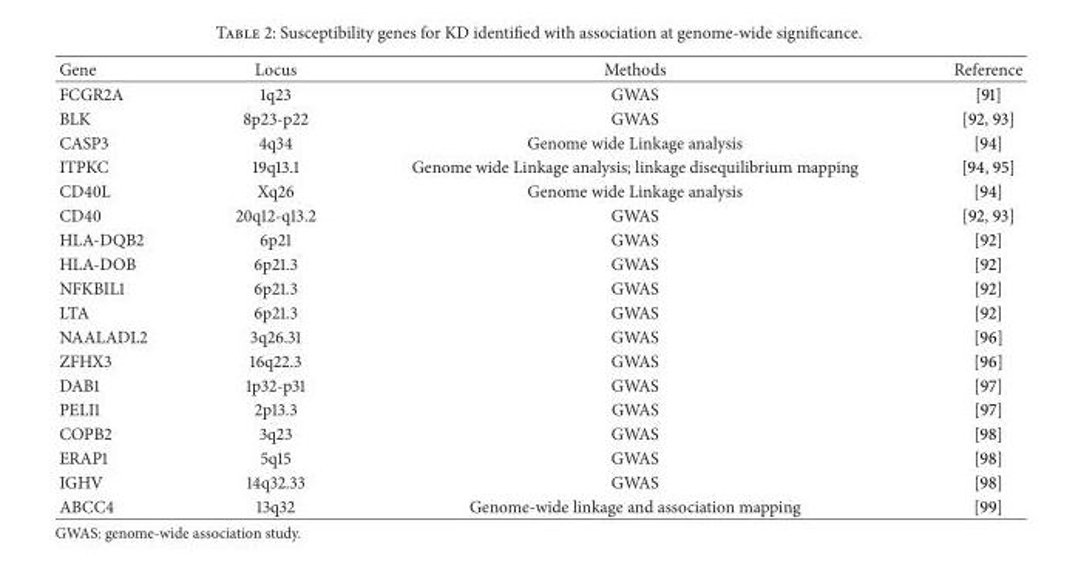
<table><thead><tr><td>Gene</td><td>Locus</td><td>Methods</td><td>Reference</td></tr></thead><tbody><tr><td>FCGR2A</td><td>1q23</td><td>GWAS</td><td>[91]</td></tr><tr><td>BLK</td><td>8p23-p22</td><td>GWAS</td><td>[92, 93]</td></tr><tr><td>CASP3</td><td>4q34</td><td>Genome wide Linkage analysis</td><td>[94]</td></tr><tr><td>ITPKC</td><td>19q13.1</td><td>Genome wide Linkage analysis; linkage disequilibrium mapping</td><td>[94, 95]</td></tr><tr><td>CD40L</td><td>Xq26</td><td>Genome wide Linkage analysis</td><td>[94]</td></tr><tr><td>CD40</td><td>20q12-q13.2</td><td>GWAS</td><td>[92, 93]</td></tr><tr><td>HLA-DQB2</td><td>6p21</td><td>GWAS</td><td>[92]</td></tr><tr><td>HLA-DOB</td><td>6p21.3</td><td>GWAS</td><td>[92]</td></tr><tr><td>NFKBIL1</td><td>6p21.3</td><td>GWAS</td><td>[92]</td></tr><tr><td>LTA</td><td>6p21.3</td><td>GWAS</td><td>[92]</td></tr><tr><td>NAALADL2</td><td>3q26.31</td><td>GWAS</td><td>[96]</td></tr><tr><td>ZFHX3</td><td>16q22.3</td><td>GWAS</td><td>[96]</td></tr><tr><td>DAB1</td><td>1p32-p31</td><td>GWAS</td><td>[97]</td></tr><tr><td>PELI1</td><td>2p13.3</td><td>GWAS</td><td>[97]</td></tr><tr><td>COPB2</td><td>3q23</td><td>GWAS</td><td>[98]</td></tr><tr><td>ERAP1</td><td>5q15</td><td>GWAS</td><td>[98]</td></tr><tr><td>IGHV</td><td>14q32.33</td><td>GWAS</td><td>[98]</td></tr><tr><td>ABCC4</td><td>13q32</td><td>Genome-wide linkage and association mapping</td><td>[99]</td></tr></tbody></table>